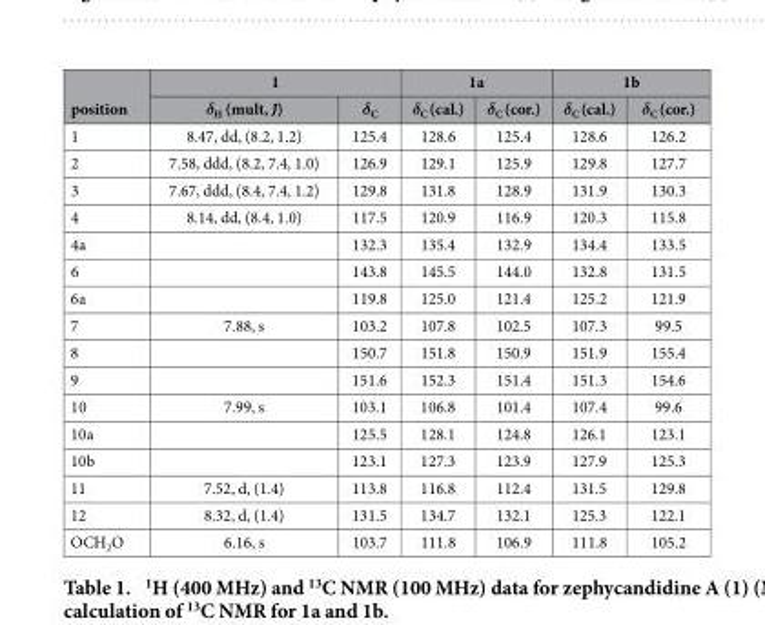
<table><thead><tr><td rowspan="2">position</td><td colspan="2">1</td><td colspan="2">1a</td><td colspan="2">1b</td></tr><tr><td>δ<sub>H</sub> (mult, J)</td><td>δ<sub>C</sub></td><td>δ<sub>C</sub> (cal.)</td><td>δ<sub>C</sub> (cor.)</td><td>δ<sub>C</sub> (cal.)</td><td>δ<sub>C</sub> (cor.)</td></tr></thead><tbody><tr><td>1</td><td>8.47, dd, (8.2, 1.2)</td><td>125.4</td><td>128.6</td><td>125.4</td><td>128.6</td><td>126.2</td></tr><tr><td>2</td><td>7.58, ddd, (8.2, 7.4, 1.0)</td><td>126.9</td><td>129.1</td><td>125.9</td><td>129.8</td><td>127.7</td></tr><tr><td>3</td><td>7.67, ddd, (8.4, 7.4, 1.2)</td><td>129.8</td><td>131.8</td><td>128.9</td><td>131.9</td><td>130.3</td></tr><tr><td>4</td><td>8.14, dd, (8.4, 1.0)</td><td>117.5</td><td>120.9</td><td>116.9</td><td>120.3</td><td>115.8</td></tr><tr><td>4a</td><td></td><td>132.3</td><td>135.4</td><td>132.9</td><td>134.4</td><td>133.5</td></tr><tr><td>6</td><td></td><td>143.8</td><td>145.5</td><td>144.0</td><td>132.8</td><td>131.5</td></tr><tr><td>6a</td><td></td><td>119.8</td><td>125.0</td><td>121.4</td><td>125.2</td><td>121.9</td></tr><tr><td>7</td><td>7.88, s</td><td>103.2</td><td>107.8</td><td>102.5</td><td>107.3</td><td>99.5</td></tr><tr><td>8</td><td></td><td>150.7</td><td>151.8</td><td>150.9</td><td>151.9</td><td>155.4</td></tr><tr><td>9</td><td></td><td>151.6</td><td>152.3</td><td>151.4</td><td>151.3</td><td>154.6</td></tr><tr><td>10</td><td>7.99, s</td><td>103.1</td><td>106.8</td><td>101.4</td><td>107.4</td><td>99.6</td></tr><tr><td>10a</td><td></td><td>125.5</td><td>128.1</td><td>124.8</td><td>126.1</td><td>123.1</td></tr><tr><td>10b</td><td></td><td>123.1</td><td>127.3</td><td>123.9</td><td>127.9</td><td>125.3</td></tr><tr><td>11</td><td>7.52, d, (1.4)</td><td>113.8</td><td>116.8</td><td>112.4</td><td>131.5</td><td>129.8</td></tr><tr><td>12</td><td>8.32, d, (1.4)</td><td>131.5</td><td>134.7</td><td>132.1</td><td>125.3</td><td>122.1</td></tr><tr><td>OCH<sub>2</sub>O</td><td>6.16, s</td><td>103.7</td><td>111.8</td><td>106.9</td><td>111.8</td><td>105.2</td></tr></tbody></table>